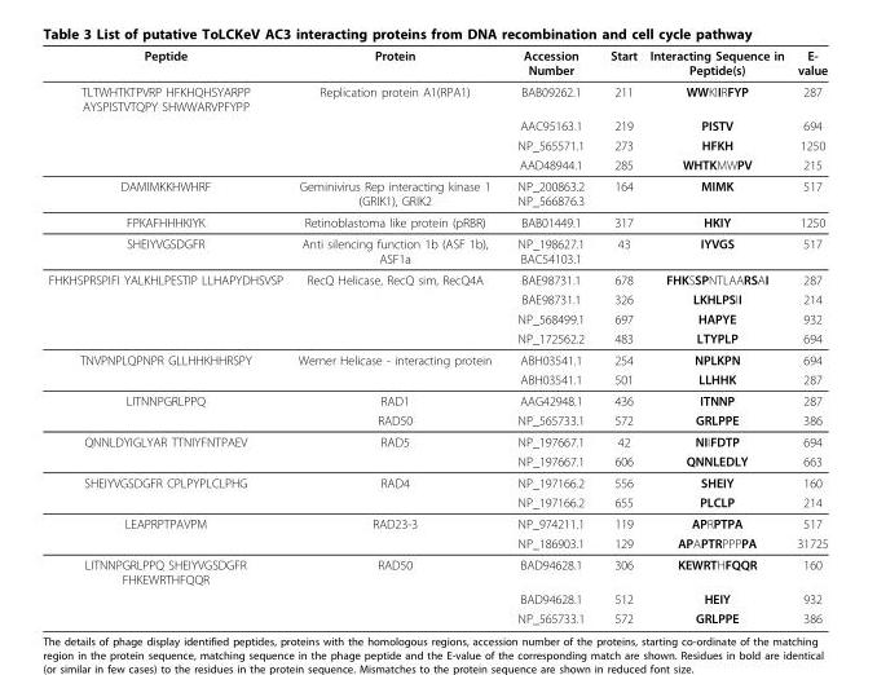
<table><thead><tr><td>Peptide</td><td>Protein</td><td>Accession Number</td><td>Start</td><td>Interacting Sequence in Peptide(s)</td><td>E- value</td></tr></thead><tbody><tr><td rowspan="4">TLTWHTKTPVRP HFKHQHSYARPP AYSPISTVTQPY SHWWARVPFYPP</td><td>Replication protein A1(RPA1)</td><td>BAB09262.1</td><td>211</td><td>WWKIIRFYP</td><td>287</td></tr><tr><td></td><td>AAC95163.1</td><td>219</td><td>PISTV</td><td>694</td></tr><tr><td></td><td>NP_565571.1</td><td>273</td><td>HFKH</td><td>1250</td></tr><tr><td></td><td>AAD48944.1</td><td>285</td><td>WHTKMWPV</td><td>215</td></tr><tr><td>DAMIMKKHWHRF</td><td>Geminivirus Rep interacting kinase 1 (GRIK1), GRIK2</td><td>NP_200863.2 NP_566876.3</td><td>164</td><td>MIMK</td><td>517</td></tr><tr><td>FPKAFHHHKIYK</td><td>Retinoblastoma like protein (pRBR)</td><td>BAB01449.1</td><td>317</td><td>HKIY</td><td>1250</td></tr><tr><td>SHEIYVGSDGFR</td><td>Anti silencing function 1b (ASF 1b), ASF1a</td><td>NP_198627.1 BAC54103.1</td><td>43</td><td>IYVGS</td><td>517</td></tr><tr><td rowspan="4">FHKHSPRSPIFI YALKHLPESTIP LLHAPYDHSVSP</td><td>RecQ Helicase, RecQ sim, RecQ4A</td><td>BAE98731.1</td><td>678</td><td>FHKSSPNTLAARSAI</td><td>287</td></tr><tr><td></td><td>BAE98731.1</td><td>326</td><td>LKHLPSII</td><td>214</td></tr><tr><td></td><td>NP_568499.1</td><td>697</td><td>HAPYE</td><td>932</td></tr><tr><td></td><td>NP_172562.2</td><td>483</td><td>LTYPLP</td><td>694</td></tr><tr><td rowspan="2">TNVPNPLQPNPR GLLHHKHHRSPY</td><td>Werner Helicase - interacting protein</td><td>ABH03541.1</td><td>254</td><td>NPLKPN</td><td>694</td></tr><tr><td></td><td>ABH03541.1</td><td>501</td><td>LLHHK</td><td>287</td></tr><tr><td rowspan="2">LITNNPGRLPPQ</td><td>RAD1</td><td>AAG42948.1</td><td>436</td><td>ITNNP</td><td>287</td></tr><tr><td>RAD50</td><td>NP_565733.1</td><td>572</td><td>GRLPPE</td><td>386</td></tr><tr><td rowspan="2">QNNLDYIGLYAR TTNIYFNTPAEV</td><td>RAD5</td><td>NP_197667.1</td><td>42</td><td>NIIFDTP</td><td>694</td></tr><tr><td></td><td>NP_197667.1</td><td>606</td><td>QNNLEDLY</td><td>663</td></tr><tr><td rowspan="2">SHEIYVGSDGFR CPLPYPLCLPHG</td><td>RAD4</td><td>NP_197166.2</td><td>556</td><td>SHEIY</td><td>160</td></tr><tr><td></td><td>NP_197166.2</td><td>655</td><td>PLCLP</td><td>214</td></tr><tr><td rowspan="2">LEAPRPTPAVPM</td><td>RAD23-3</td><td>NP_974211.1</td><td>119</td><td>APRPTPA</td><td>517</td></tr><tr><td></td><td>NP_186903.1</td><td>129</td><td>APAPTRPPPPA</td><td>31725</td></tr><tr><td rowspan="3">LITNNPGRLPPQ SHEIYVGSDGFR FHKEWRTHFQQR</td><td>RAD50</td><td>BAD94628.1</td><td>306</td><td>KEWRTHFQQR</td><td>160</td></tr><tr><td></td><td>BAD94628.1</td><td>512</td><td>HEIY</td><td>932</td></tr><tr><td></td><td>NP_565733.1</td><td>572</td><td>GRLPPE</td><td>386</td></tr></tbody></table>